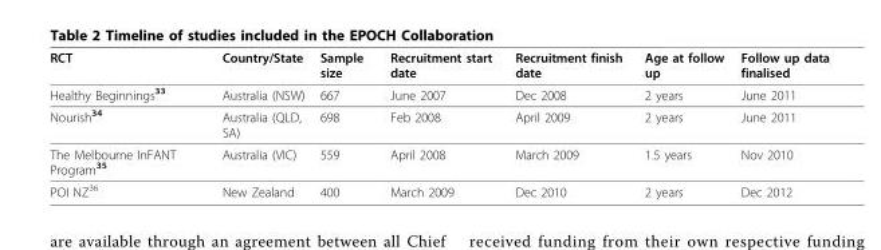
<table><thead><tr><td>RCT</td><td>Country/State</td><td>Sample size</td><td>Recruitment start date</td><td>Recruitment finish date</td><td>Age at follow up</td><td>Follow up data finalised</td></tr></thead><tbody><tr><td>Healthy Beginnings<sup>33</sup></td><td>Australia (NSW)</td><td>667</td><td>June 2007</td><td>Dec 2008</td><td>2 years</td><td>June 2011</td></tr><tr><td>Nourish<sup>34</sup></td><td>Australia (QLD, SA)</td><td>698</td><td>Feb 2008</td><td>April 2009</td><td>2 years</td><td>June 2011</td></tr><tr><td>The Melbourne InFANT Program<sup>35</sup></td><td>Australia (VIC)</td><td>559</td><td>April 2008</td><td>March 2009</td><td>1.5 years</td><td>Nov 2010</td></tr><tr><td>POI NZ<sup>36</sup></td><td>New Zealand</td><td>400</td><td>March 2009</td><td>Dec 2010</td><td>2 years</td><td>Dec 2012</td></tr></tbody></table>